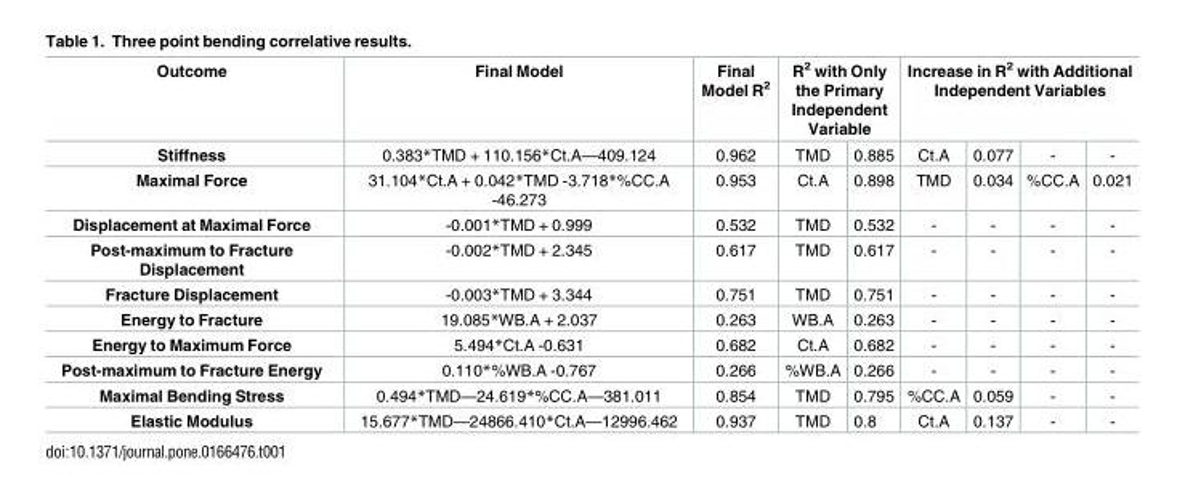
<table><thead><tr><td rowspan="2">Outcome Stiffness</td><td rowspan="2">Final Model 0.383*TMD + 110.156*Ct.A—409.124</td><td rowspan="2">Final Model R<sup>2</sup> 0.962</td><td colspan="2">R<sup>2</sup> with Only the Primary Independent Variable</td><td colspan="4">Increase in R<sup>2</sup> with Additional Independent Variables</td></tr><tr><td>TMD</td><td>0.885</td><td>Ct.A</td><td>0.077</td><td>-</td><td>-</td></tr></thead><tbody><tr><td>Maximal Force</td><td>31.104*Ct.A + 0.042*TMD -3.718*%CC.A -46.273</td><td>0.953</td><td>Ct.A</td><td>0.898</td><td>TMD</td><td>0.034</td><td>%CC.A</td><td>0.021</td></tr><tr><td>Displacement at Maximal Force</td><td>-0.001*TMD + 0.999</td><td>0.532</td><td>TMD</td><td>0.532</td><td>-</td><td>-</td><td>-</td><td>-</td></tr><tr><td>Post-maximum to Fracture Displacement</td><td>-0.002*TMD + 2.345</td><td>0.617</td><td>TMD</td><td>0.617</td><td>-</td><td>-</td><td>-</td><td>-</td></tr><tr><td>Fracture Displacement</td><td>-0.003*TMD + 3.344</td><td>0.751</td><td>TMD</td><td>0.751</td><td>-</td><td>-</td><td>-</td><td>-</td></tr><tr><td>Energy to Fracture</td><td>19.085*WB.A + 2.037</td><td>0.263</td><td>WB.A</td><td>0.263</td><td>-</td><td>-</td><td>-</td><td>-</td></tr><tr><td>Energy to Maximum Force</td><td>5.494*Ct.A -0.631</td><td>0.682</td><td>Ct.A</td><td>0.682</td><td>-</td><td>-</td><td>-</td><td>-</td></tr><tr><td>Post-maximum to Fracture Energy</td><td>0.110*%WB.A -0.767</td><td>0.266</td><td>%WB.A</td><td>0.266</td><td>-</td><td>-</td><td>-</td><td>-</td></tr><tr><td>Maximal Bending Stress</td><td>0.494*TMD—24.619*%CC.A—381.011</td><td>0.854</td><td>TMD</td><td>0.795</td><td>%CC.A</td><td>0.059</td><td>-</td><td>-</td></tr><tr><td>Elastic Modulus</td><td>15.677*TMD—24866.410*Ct.A—12996.462</td><td>0.937</td><td>TMD</td><td>0.8</td><td>Ct.A</td><td>0.137</td><td>-</td><td>-</td></tr></tbody></table>